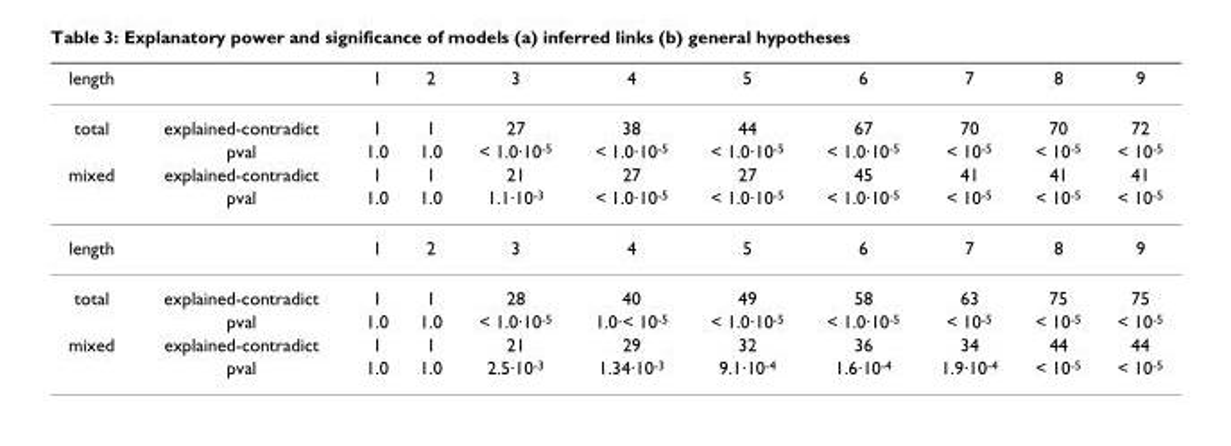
<table><thead><tr><td>length</td><td></td><td>1</td><td>2</td><td>3</td><td>4</td><td>5</td><td>6</td><td>7</td><td>8</td><td>9</td></tr></thead><tbody><tr><td rowspan="2">total</td><td>explained-contradict</td><td>1</td><td>1</td><td>27</td><td>38</td><td>44</td><td>67</td><td>70</td><td>70</td><td>72</td></tr><tr><td>pval</td><td>1.0</td><td>1.0</td><td>&lt; 1.0·10-5</td><td>&lt; 1.0·10-5</td><td>&lt; 1.0·10-5</td><td>&lt; 1.0·10-5</td><td>&lt; 10-5</td><td>&lt; 10-5</td><td>&lt; 10-5</td></tr><tr><td rowspan="2">mixed</td><td>explained-contradict</td><td>1</td><td>1</td><td>21</td><td>27</td><td>27</td><td>45</td><td>41</td><td>41</td><td>41</td></tr><tr><td>pval</td><td>1.0</td><td>1.0</td><td>1.1·10-3</td><td>&lt; 1.0·10-5</td><td>&lt; 1.0·10-5</td><td>&lt; 1.0·10-5</td><td>&lt; 10-5</td><td>&lt; 10-5</td><td>&lt; 10-5</td></tr><tr><td>length</td><td></td><td>1</td><td>2</td><td>3</td><td>4</td><td>5</td><td>6</td><td>7</td><td>8</td><td>9</td></tr><tr><td rowspan="2">total</td><td>explained-contradict</td><td>1</td><td>1</td><td>28</td><td>40</td><td>49</td><td>58</td><td>63</td><td>75</td><td>75</td></tr><tr><td>pval</td><td>1.0</td><td>1.0</td><td>&lt; 1.0·10-5</td><td>1.0·&lt; 10-5</td><td>&lt; 1.0·10-5</td><td>&lt; 1.0·10-5</td><td>&lt; 10-5</td><td>&lt; 10-5</td><td>&lt; 10-5</td></tr><tr><td rowspan="2">mixed</td><td>explained-contradict</td><td>1</td><td>1</td><td>21</td><td>29</td><td>32</td><td>36</td><td>34</td><td>44</td><td>44</td></tr><tr><td>pval</td><td>1.0</td><td>1.0</td><td>2.5·10-3</td><td>1.34·10-3</td><td>9.1·10-4</td><td>1.6·10-4</td><td>1.9·10-4</td><td>&lt; 10-5</td><td>&lt; 10-5</td></tr></tbody></table>